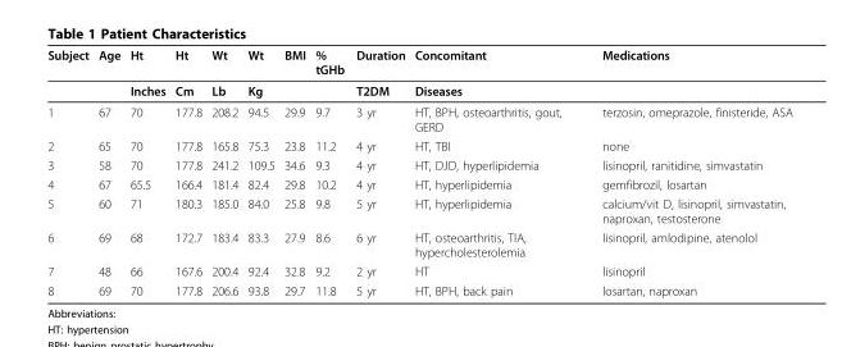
<table><thead><tr><td>Subject</td><td>Age</td><td>Ht</td><td>Ht</td><td>Wt</td><td>Wt</td><td>BMI</td><td>% tGHb</td><td>Duration</td><td>Concomitant</td><td>Medications</td></tr></thead><tbody><tr><td></td><td></td><td>Inches</td><td>Cm</td><td>Lb</td><td>Kg</td><td></td><td></td><td>T2DM</td><td>Diseases</td><td></td></tr><tr><td>1</td><td>67</td><td>70</td><td>177.8</td><td>208.2</td><td>94.5</td><td>29.9</td><td>9.7</td><td>3 yr</td><td>HT, BPH, osteoarthritis, gout, GERD</td><td>terzosin, omeprazole, finisteride, ASA</td></tr><tr><td>2</td><td>65</td><td>70</td><td>177.8</td><td>165.8</td><td>75.3</td><td>23.8</td><td>11.2</td><td>4 yr</td><td>HT, TBI</td><td>none</td></tr><tr><td>3</td><td>58</td><td>70</td><td>177.8</td><td>241.2</td><td>109.5</td><td>34.6</td><td>9.3</td><td>4 yr</td><td>HT, DJD, hyperlipidemia</td><td>lisinopril, ranitidine, simvastatin</td></tr><tr><td>4</td><td>67</td><td>65.5</td><td>166.4</td><td>181.4</td><td>82.4</td><td>29.8</td><td>10.2</td><td>4 yr</td><td>HT, hyperlipidemia</td><td>gemfibrozil, losartan</td></tr><tr><td>5</td><td>60</td><td>71</td><td>180.3</td><td>185.0</td><td>84.0</td><td>25.8</td><td>9.8</td><td>5 yr</td><td>HT, hyperlipidemia</td><td>calcium/vit D, lisinopril, simvastatin, naproxan, testosterone</td></tr><tr><td>6</td><td>69</td><td>68</td><td>172.7</td><td>183.4</td><td>83.3</td><td>27.9</td><td>8.6</td><td>6 yr</td><td>HT, osteoarthritis, TIA, hypercholesterolemia</td><td>lisinopril, amlodipine, atenolol</td></tr><tr><td>7</td><td>48</td><td>66</td><td>167.6</td><td>200.4</td><td>92.4</td><td>32.8</td><td>9.2</td><td>2 yr</td><td>HT</td><td>lisinopril</td></tr><tr><td>8</td><td>69</td><td>70</td><td>177.8</td><td>206.6</td><td>93.8</td><td>29.7</td><td>11.8</td><td>5 yr</td><td>HT, BPH, back pain</td><td>losartan, naproxan</td></tr></tbody></table>